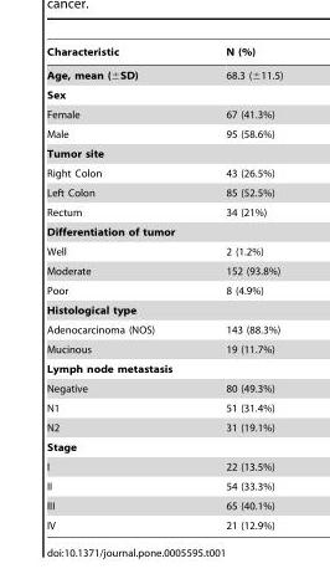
<table><thead><tr><td>Characteristic</td><td>N (%)</td></tr></thead><tbody><tr><td>Age, mean (±SD)</td><td>68.3 (±11.5)</td></tr><tr><td colspan="2">Sex</td></tr><tr><td>Female</td><td>67 (41.3%)</td></tr><tr><td>Male</td><td>95 (58.6%)</td></tr><tr><td colspan="2">Tumor site</td></tr><tr><td>Right Colon</td><td>43 (26.5%)</td></tr><tr><td>Left Colon</td><td>85 (52.5%)</td></tr><tr><td>Rectum</td><td>34 (21%)</td></tr><tr><td colspan="2">Differentiation of tumor</td></tr><tr><td>Well</td><td>2 (1.2%)</td></tr><tr><td>Moderate</td><td>152 (93.8%)</td></tr><tr><td>Poor</td><td>8 (4.9%)</td></tr><tr><td colspan="2">Histological type</td></tr><tr><td>Adenocarcinoma (NOS)</td><td>143 (88.3%)</td></tr><tr><td>Mucinous</td><td>19 (11.7%)</td></tr><tr><td colspan="2">Lymph node metastasis</td></tr><tr><td>Negative</td><td>80 (49.3%)</td></tr><tr><td>N1</td><td>51 (31.4%)</td></tr><tr><td>N2</td><td>31 (19.1%)</td></tr><tr><td colspan="2">Stage</td></tr><tr><td>I</td><td>22 (13.5%)</td></tr><tr><td>II</td><td>54 (33.3%)</td></tr><tr><td>III</td><td>65 (40.1%)</td></tr><tr><td>IV</td><td>21 (12.9%)</td></tr></tbody></table>